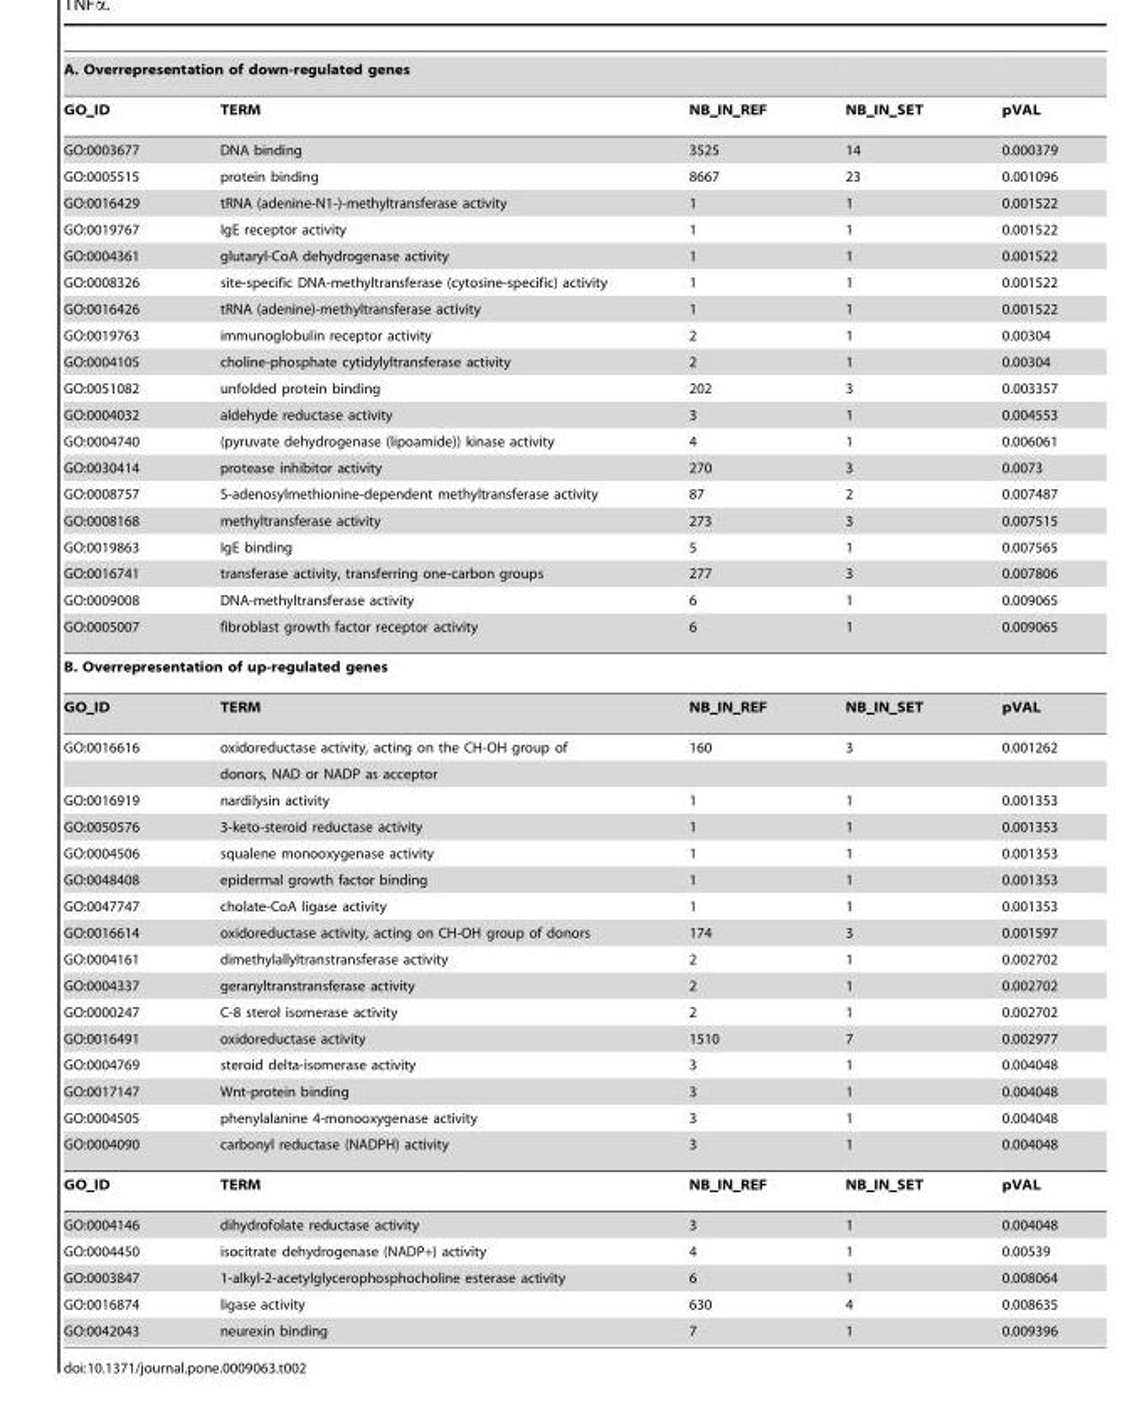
<table><tbody><tr><td colspan="5">A. Overrepresentation of down-regulated genes</td></tr><tr><td>GO__ID</td><td>TERM</td><td>NB__IN__REF</td><td>NB__IN__SET</td><td>pVAL</td></tr><tr><td>GO:0003677</td><td>DNA binding</td><td>3525</td><td>14</td><td>0.000379</td></tr><tr><td>GO:0005515</td><td>protein binding</td><td>8667</td><td>23</td><td>0.001096</td></tr><tr><td>GO:0016429</td><td>tRNA (adenine-N1-)-methyltransferase activity</td><td>1</td><td>1</td><td>0.001522</td></tr><tr><td>GO:0019767</td><td>IgE receptor activity</td><td>1</td><td>1</td><td>0.001522</td></tr><tr><td>GO:0004361</td><td>glutaryl-CoA dehydrogenase activity</td><td>1</td><td>1</td><td>0.001522</td></tr><tr><td>GO:0008326</td><td>site-specific DNA-methyltransferase (cytosine-specific) activity</td><td>1</td><td>1</td><td>0.001522</td></tr><tr><td>GO:0016426</td><td>tRNA (adenine)-methyltransferase activity</td><td>1</td><td>1</td><td>0.001522</td></tr><tr><td>GO:0019763</td><td>immunoglobulin receptor activity</td><td>2</td><td>1</td><td>0.00304</td></tr><tr><td>GO:0004105</td><td>choline-phosphate cytidylyltransferase activity</td><td>2</td><td>1</td><td>0.00304</td></tr><tr><td>GO:0051082</td><td>unfolded protein binding</td><td>202</td><td>3</td><td>0.003357</td></tr><tr><td>GO:0004032</td><td>aldehyde reductase activity</td><td>3</td><td>1</td><td>0.004553</td></tr><tr><td>GO:0004740</td><td>(pyruvate dehydrogenase (lipoamide)) kinase activity</td><td>4</td><td>1</td><td>0.006061</td></tr><tr><td>GO:0030414</td><td>protease inhibitor activity</td><td>270</td><td>3</td><td>0.0073</td></tr><tr><td>GO:0008757</td><td>S-adenosylmethionine-dependent methyltransferase activity</td><td>87</td><td>2</td><td>0.007487</td></tr><tr><td>GO:0008168</td><td>methyltransferase activity</td><td>273</td><td>3</td><td>0.007515</td></tr><tr><td>GO:0019863</td><td>IgE binding</td><td>5</td><td>1</td><td>0.007565</td></tr><tr><td>GO:0016741</td><td>transferase activity, transferring one-carbon groups</td><td>277</td><td>3</td><td>0.007806</td></tr><tr><td>GO:0009008</td><td>DNA-methyltransferase activity</td><td>6</td><td>1</td><td>0.009065</td></tr><tr><td>GO:0005007</td><td>fibroblast growth factor receptor activity</td><td>6</td><td>1</td><td>0.009065</td></tr><tr><td colspan="5">B. Overrepresentation of up-regulated genes</td></tr><tr><td>GO__ID</td><td>TERM</td><td>NB__IN__REF</td><td>NB__IN__SET</td><td>pVAL</td></tr><tr><td rowspan="2">GO:0016616</td><td>oxidoreductase activity, acting on the CH-OH group of</td><td>160</td><td>3</td><td>0.001262</td></tr><tr><td colspan="3">donors, NAD or NADP as acceptor</td><td></td></tr><tr><td>GO:0016919</td><td>nardilysin activity</td><td>1</td><td>1</td><td>0.001353</td></tr><tr><td>GO:0050576</td><td>3-keto-steroid reductase activity</td><td>1</td><td>1</td><td>0.001353</td></tr><tr><td>GO:0004506</td><td>squalene monooxygenase activity</td><td>1</td><td>1</td><td>0.001353</td></tr><tr><td>GO:0048408</td><td>epidermal growth factor binding</td><td>1</td><td>1</td><td>0.001353</td></tr><tr><td>GO:0047747</td><td>cholate-CoA ligase activity</td><td>1</td><td>1</td><td>0.001353</td></tr><tr><td>GO:0016614</td><td>oxidoreductase activity, acting on CH-OH group of donors</td><td>174</td><td>3</td><td>0.001597</td></tr><tr><td>GO:0004161</td><td>dimethylallyltranstransferase activity</td><td>2</td><td>1</td><td>0.002702</td></tr><tr><td>GO:0004337</td><td>geranyltranstransferase activity</td><td>2</td><td>1</td><td>0.002702</td></tr><tr><td>GO:0000247</td><td>C-8 sterol isomerase activity</td><td>2</td><td>1</td><td>0.002702</td></tr><tr><td>GO:0016491</td><td>oxidoreductase activity</td><td>1510</td><td>7</td><td>0.002977</td></tr><tr><td>GO:0004769</td><td>steroid delta-isomerase activity</td><td>3</td><td>1</td><td>0.004048</td></tr><tr><td>GO:0017147</td><td>Wnt-protein binding</td><td>3</td><td>1</td><td>0.004048</td></tr><tr><td>GO:0004505</td><td>phenylalanine 4-monooxygenase activity</td><td>3</td><td>1</td><td>0.004048</td></tr><tr><td>GO:0004090</td><td>carbonyl reductase (NADPH) activity</td><td>3</td><td>1</td><td>0.004048</td></tr><tr><td>GO__ID</td><td>TERM</td><td>NB__IN__REF</td><td>NB__IN__SET</td><td>pVAL</td></tr><tr><td>GO:0004146</td><td>dihydrofolate reductase activity</td><td>3</td><td>1</td><td>0.004048</td></tr><tr><td>GO:0004450</td><td>isocitrate dehydrogenase (NADP+) activity</td><td>4</td><td>1</td><td>0.00539</td></tr><tr><td>GO:0003847</td><td>1-alkyl-2-acetylglycerophosphocholine esterase activity</td><td>6</td><td>1</td><td>0.008064</td></tr><tr><td>GO:0016874</td><td>ligase activity</td><td>630</td><td>4</td><td>0.008635</td></tr><tr><td>GO:0042043</td><td>neurexin binding</td><td>7</td><td>1</td><td>0.009396</td></tr></tbody></table>